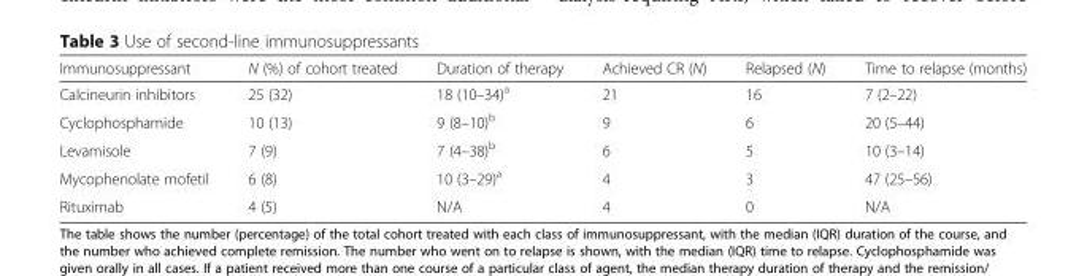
<table><thead><tr><td>Immunosuppressant</td><td>N (%) of cohort treated</td><td>Duration of therapy</td><td>Achieved CR (N)</td><td>Relapsed (N)</td><td>Time to relapse (months)</td></tr></thead><tbody><tr><td>Calcineurin inhibitors</td><td>25 (32)</td><td>18 (10–34)<sup>a</sup></td><td>21</td><td>16</td><td>7 (2–22)</td></tr><tr><td>Cyclophosphamide</td><td>10 (13)</td><td>9 (8–10)<sup>b</sup></td><td>9</td><td>6</td><td>20 (5–44)</td></tr><tr><td>Levamisole</td><td>7 (9)</td><td>7 (4–38)<sup>b</sup></td><td>6</td><td>5</td><td>10 (3–14)</td></tr><tr><td>Mycophenolate mofetil</td><td>6 (8)</td><td>10 (3–29)<sup>a</sup></td><td>4</td><td>3</td><td>47 (25–56)</td></tr><tr><td>Rituximab</td><td>4 (5)</td><td>N/A</td><td>4</td><td>0</td><td>N/A</td></tr></tbody></table>